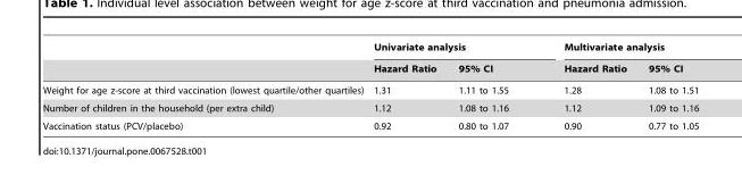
<table><thead><tr><td rowspan="2"></td><td colspan="2">Univariate analysis</td><td colspan="2">Multivariate analysis</td></tr><tr><td>Hazard Ratio</td><td>95% CI</td><td>Hazard Ratio</td><td>95% CI</td></tr></thead><tbody><tr><td>Weight for age z-score at third vaccination (lowest quartile/other quartiles)</td><td>1.31</td><td>1.11 to 1.55</td><td>1.28</td><td>1.08 to 1.51</td></tr><tr><td>Number of children in the household (per extra child)</td><td>1.12</td><td>1.08 to 1.16</td><td>1.12</td><td>1.09 to 1.16</td></tr><tr><td>Vaccination status (PCV/placebo)</td><td>0.92</td><td>0.80 to 1.07</td><td>0.90</td><td>0.77 to 1.05</td></tr></tbody></table>